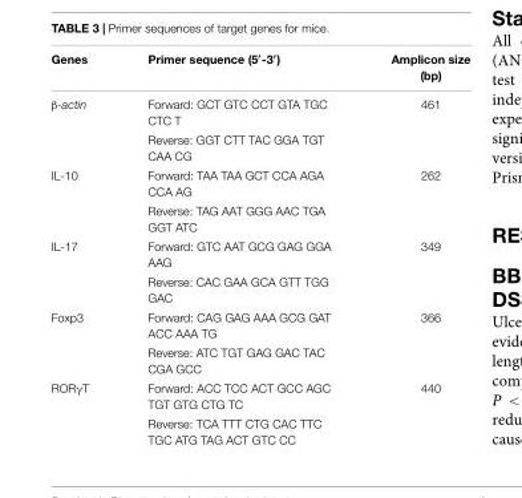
<table><thead><tr><td>Genes</td><td>Primer sequence (5′-3′)</td><td>Amplicon size (bp)</td></tr></thead><tbody><tr><td rowspan="2">β-actin</td><td>Forward: GCT GTC CCT GTA TGC CTC T</td><td>461</td></tr><tr><td>Reverse: GGT CTT TAC GGA TGT CAA CG</td><td></td></tr><tr><td rowspan="2">IL-10</td><td>Forward: TAA TAA GCT CCA AGA CCA AG</td><td>262</td></tr><tr><td>Reverse: TAG AAT GGG AAC TGA GGT ATC</td><td></td></tr><tr><td rowspan="2">IL-17</td><td>Forward: GTC AAT GCG GAG GGA AAG</td><td>349</td></tr><tr><td>Reverse: CAC GAA GCA GTT TGG GAC</td><td></td></tr><tr><td rowspan="2">Foxp3</td><td>Forward: CAG GAG AAA GCG GAT ACC AAA TG</td><td>366</td></tr><tr><td>Reverse: ATC TGT GAG GAC TAC CGA GCC</td><td></td></tr><tr><td rowspan="2">RORγT</td><td>Forward: ACC TCC ACT GCC AGC TGT GTG CTG TC</td><td>440</td></tr><tr><td>Reverse: TCA TTT CTG CAC TTC TGC ATG TAG ACT GTC CC</td><td></td></tr></tbody></table>